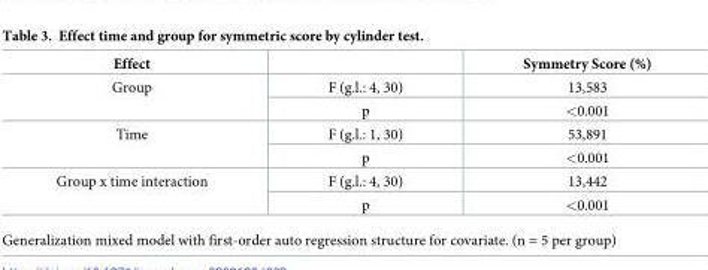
<table><thead><tr><td>Effect</td><td></td><td>Symmetry Score (%)</td></tr></thead><tbody><tr><td rowspan="2">Group</td><td>F (g.l.: 4, 30)</td><td>13,583</td></tr><tr><td>p</td><td>&lt;0.001</td></tr><tr><td rowspan="2">Time</td><td>F (g.l.: 1, 30)</td><td>53,891</td></tr><tr><td>p</td><td>&lt;0.001</td></tr><tr><td rowspan="2">Group x time interaction</td><td>F (g.l.: 4, 30)</td><td>13,442</td></tr><tr><td>p</td><td>&lt;0.001</td></tr></tbody></table>